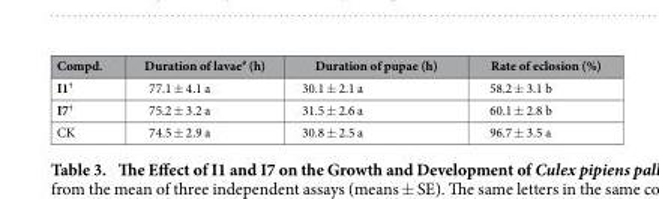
<table><thead><tr><td>Compd.</td><td>Duration of lavae# (h)</td><td>Duration of pupae (h)</td><td>Rate of eclosion (%)</td></tr></thead><tbody><tr><td>I1†</td><td>77.1 ± 4.1 a</td><td>30.1 ± 2.1 a</td><td>58.2 ± 3.1 b</td></tr><tr><td>I7†</td><td>75.2 ± 3.2 a</td><td>31.5 ± 2.6 a</td><td>60.1 ± 2.8 b</td></tr><tr><td>CK</td><td>74.5 ± 2.9 a</td><td>30.8 ± 2.5 a</td><td>96.7 ± 3.5 a</td></tr></tbody></table>